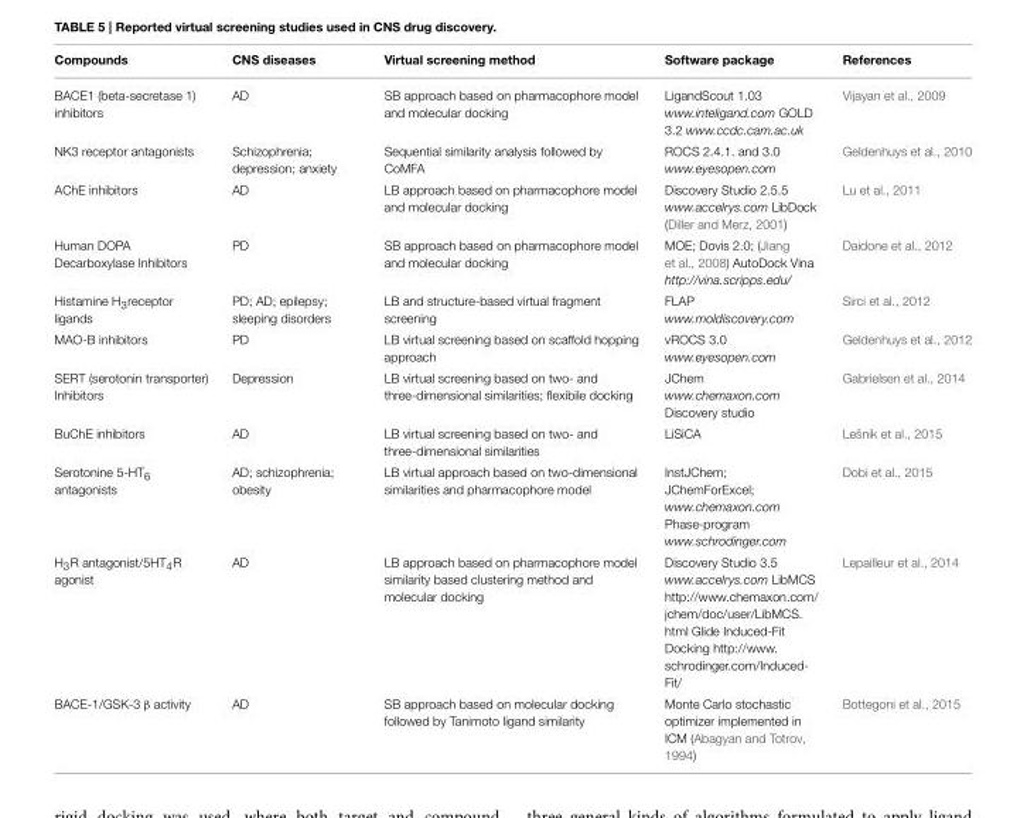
<table><thead><tr><td>Compounds</td><td>CNS diseases</td><td>Virtual screening method</td><td>Software package</td><td>References</td></tr></thead><tbody><tr><td>BACE1 (beta-secretase 1) inhibitors</td><td>AD</td><td>SB approach based on pharmacophore model and molecular docking</td><td>LigandScout 1.03 www.inteligand.com GOLD 3.2 www.ccdc.cam.ac.uk</td><td>Vijayan et al., 2009</td></tr><tr><td>NK3 receptor antagonists</td><td>Schizophrenia; depression; anxiety</td><td>Sequential similarity analysis followed by CoMFA</td><td>ROCS 2.4.1. and 3.0 www.eyesopen.com</td><td>Geldenhuys et al., 2010</td></tr><tr><td>AChE inhibitors</td><td>AD</td><td>LB approach based on pharmacophore model and molecular docking</td><td>Discovery Studio 2.5.5 www.accelrys.com LibDock (Diller and Merz, 2001)</td><td>Lu et al., 2011</td></tr><tr><td>Human DOPA Decarboxylase Inhibitors</td><td>PD</td><td>SB approach based on pharmacophore model and molecular docking</td><td>MOE; Dovis 2.0; (Jiang et al., 2008) AutoDock Vina http://vina.scripps.edu/</td><td>Daidone et al., 2012</td></tr><tr><td>Histamine H<sub>3</sub>receptor ligands</td><td>PD; AD; epilepsy; sleeping disorders</td><td>LB and structure-based virtual fragment screening</td><td>FLAP www.moldiscovery.com</td><td>Sirci et al., 2012</td></tr><tr><td>MAO-B inhibitors</td><td>PD</td><td>LB virtual screening based on scaffold hopping approach</td><td>vROCS 3.0 www.eyesopen.com</td><td>Geldenhuys et al., 2012</td></tr><tr><td>SERT (serotonin transporter) Inhibitors</td><td>Depression</td><td>LB virtual screening based on two- and three-dimensional similarities; flexibile docking</td><td>JChem www.chemaxon.com Discovery studio</td><td>Gabrielsen et al., 2014</td></tr><tr><td>BuChE inhibitors</td><td>AD</td><td>LB virtual screening based on two- and three-dimensional similarities</td><td>LiSiCA</td><td>Lešnik et al., 2015</td></tr><tr><td>Serotonine 5-HT<sub>6</sub> antagonists</td><td>AD; schizophrenia; obesity</td><td>LB virtual approach based on two-dimensional similarities and pharmacophore model</td><td>InstJChem; JChemForExcel; www.chemaxon.com Phase-program www.schrodinger.com</td><td>Dobi et al., 2015</td></tr><tr><td>H<sub>3</sub>R antagonist/5HT<sub>4</sub>R agonist</td><td>AD</td><td>LB approach based on pharmacophore model similarity based clustering method and molecular docking</td><td>Discovery Studio 3.5 www.accelrys.com LibMCS http://www.chemaxon.com/ jchem/doc/user/LibMCS. html Glide Induced-Fit Docking http://www. schrodinger.com/Induced- Fit/</td><td>Lepailleur et al., 2014</td></tr><tr><td>BACE-1/GSK-3 β activity</td><td>AD</td><td>SB approach based on molecular docking followed by Tanimoto ligand similarity</td><td>Monte Carlo stochastic optimizer implemented in ICM (Abagyan and Totrov, 1994)</td><td>Bottegoni et al., 2015</td></tr></tbody></table>